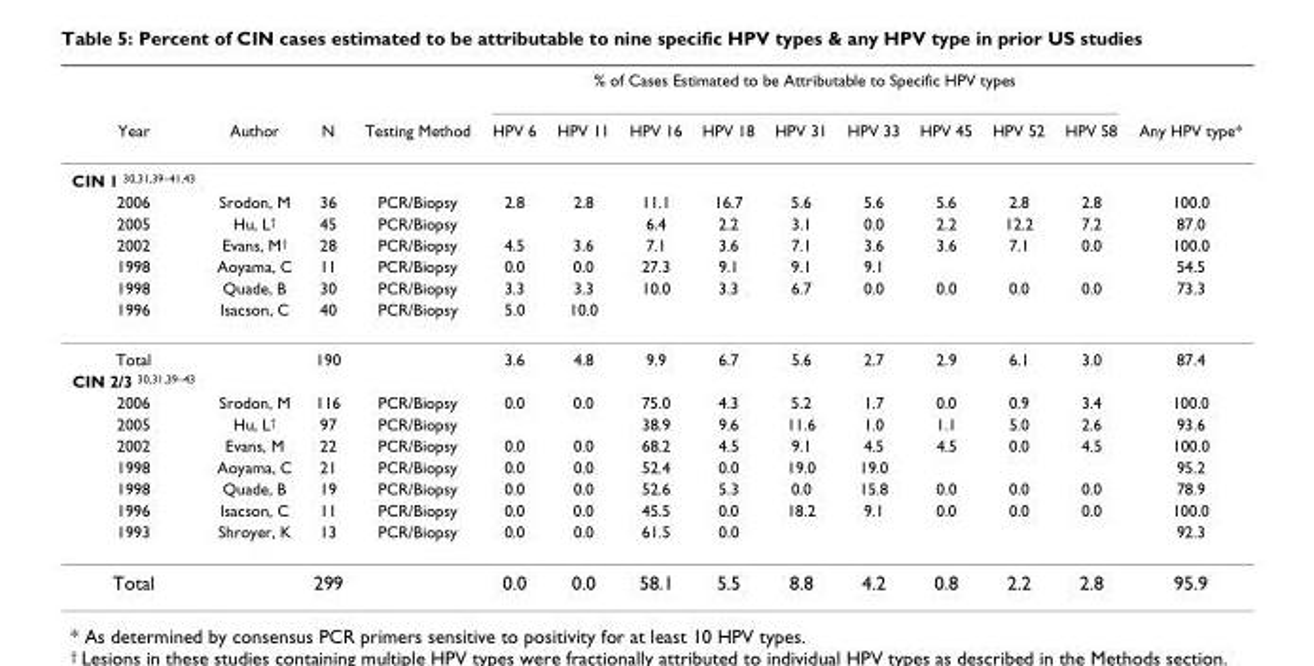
<table><thead><tr><td rowspan="2">Year</td><td rowspan="2">Author</td><td rowspan="2">N</td><td rowspan="2">Testing Method</td><td colspan="9">% of Cases Estimated to be Attributable to Specific HPV types</td><td rowspan="2">Any HPV type*</td></tr><tr><td>HPV 6</td><td>HPV 11</td><td>HPV 16</td><td>HPV 18</td><td>HPV 31</td><td>HPV 33</td><td>HPV 45</td><td>HPV 52</td><td>HPV 58</td></tr></thead><tbody><tr><td colspan="14">CIN 1 <sup>30,31,39–41,43</sup></td></tr><tr><td>2006</td><td>Srodon, M</td><td>36</td><td>PCR/Biopsy</td><td>2.8</td><td>2.8</td><td>11.1</td><td>16.7</td><td>5.6</td><td>5.6</td><td>5.6</td><td>2.8</td><td>2.8</td><td>100.0</td></tr><tr><td>2005</td><td>Hu, L<sup>†</sup></td><td>45</td><td>PCR/Biopsy</td><td></td><td></td><td>6.4</td><td>2.2</td><td>3.1</td><td>0.0</td><td>2.2</td><td>12.2</td><td>7.2</td><td>87.0</td></tr><tr><td>2002</td><td>Evans, M<sup>†</sup></td><td>28</td><td>PCR/Biopsy</td><td>4.5</td><td>3.6</td><td>7.1</td><td>3.6</td><td>7.1</td><td>3.6</td><td>3.6</td><td>7.1</td><td>0.0</td><td>100.0</td></tr><tr><td>1998</td><td>Aoyama, C</td><td>11</td><td>PCR/Biopsy</td><td>0.0</td><td>0.0</td><td>27.3</td><td>9.1</td><td>9.1</td><td>9.1</td><td></td><td></td><td></td><td>54.5</td></tr><tr><td>1998</td><td>Quade, B</td><td>30</td><td>PCR/Biopsy</td><td>3.3</td><td>3.3</td><td>10.0</td><td>3.3</td><td>6.7</td><td>0.0</td><td>0.0</td><td>0.0</td><td>0.0</td><td>73.3</td></tr><tr><td>1996</td><td>Isacson, C</td><td>40</td><td>PCR/Biopsy</td><td>5.0</td><td>10.0</td><td></td><td></td><td></td><td></td><td></td><td></td><td></td><td></td></tr><tr><td>Total</td><td></td><td>190</td><td></td><td>3.6</td><td>4.8</td><td>9.9</td><td>6.7</td><td>5.6</td><td>2.7</td><td>2.9</td><td>6.1</td><td>3.0</td><td>87.4</td></tr><tr><td colspan="14">CIN 2/3 <sup>30,31,39–43</sup></td></tr><tr><td>2006</td><td>Srodon, M</td><td>116</td><td>PCR/Biopsy</td><td>0.0</td><td>0.0</td><td>75.0</td><td>4.3</td><td>5.2</td><td>1.7</td><td>0.0</td><td>0.9</td><td>3.4</td><td>100.0</td></tr><tr><td>2005</td><td>Hu, L<sup>†</sup></td><td>97</td><td>PCR/Biopsy</td><td></td><td></td><td>38.9</td><td>9.6</td><td>11.6</td><td>1.0</td><td>1.1</td><td>5.0</td><td>2.6</td><td>93.6</td></tr><tr><td>2002</td><td>Evans, M</td><td>22</td><td>PCR/Biopsy</td><td>0.0</td><td>0.0</td><td>68.2</td><td>4.5</td><td>9.1</td><td>4.5</td><td>4.5</td><td>0.0</td><td>4.5</td><td>100.0</td></tr><tr><td>1998</td><td>Aoyama, C</td><td>21</td><td>PCR/Biopsy</td><td>0.0</td><td>0.0</td><td>52.4</td><td>0.0</td><td>19.0</td><td>19.0</td><td></td><td></td><td></td><td>95.2</td></tr><tr><td>1998</td><td>Quade, B</td><td>19</td><td>PCR/Biopsy</td><td>0.0</td><td>0.0</td><td>52.6</td><td>5.3</td><td>0.0</td><td>15.8</td><td>0.0</td><td>0.0</td><td>0.0</td><td>78.9</td></tr><tr><td>1996</td><td>Isacson, C</td><td>11</td><td>PCR/Biopsy</td><td>0.0</td><td>0.0</td><td>45.5</td><td>0.0</td><td>18.2</td><td>9.1</td><td>0.0</td><td>0.0</td><td>0.0</td><td>100.0</td></tr><tr><td>1993</td><td>Shroyer, K</td><td>13</td><td>PCR/Biopsy</td><td>0.0</td><td>0.0</td><td>61.5</td><td>0.0</td><td></td><td></td><td></td><td></td><td></td><td>92.3</td></tr><tr><td>Total</td><td></td><td>299</td><td></td><td>0.0</td><td>0.0</td><td>58.1</td><td>5.5</td><td>8.8</td><td>4.2</td><td>0.8</td><td>2.2</td><td>2.8</td><td>95.9</td></tr></tbody></table>